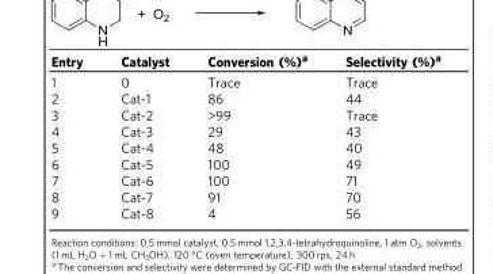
<table><thead><tr><td>Entry</td><td>Catalyst</td><td>Conversion (%)<sup>a</sup></td><td>Selectivity (%)<sup>a</sup></td></tr></thead><tbody><tr><td>1</td><td>0</td><td>Trace</td><td>Trace</td></tr><tr><td>2</td><td>Cat-1</td><td>86</td><td>44</td></tr><tr><td>3</td><td>Cat-2</td><td>&gt;99</td><td>Trace</td></tr><tr><td>4</td><td>Cat-3</td><td>29</td><td>43</td></tr><tr><td>5</td><td>Cat-4</td><td>48</td><td>40</td></tr><tr><td>6</td><td>Cat-5</td><td>100</td><td>49</td></tr><tr><td>7</td><td>Cat-6</td><td>100</td><td>71</td></tr><tr><td>8</td><td>Cat-7</td><td>91</td><td>70</td></tr><tr><td>9</td><td>Cat-8</td><td>4</td><td>56</td></tr></tbody></table>